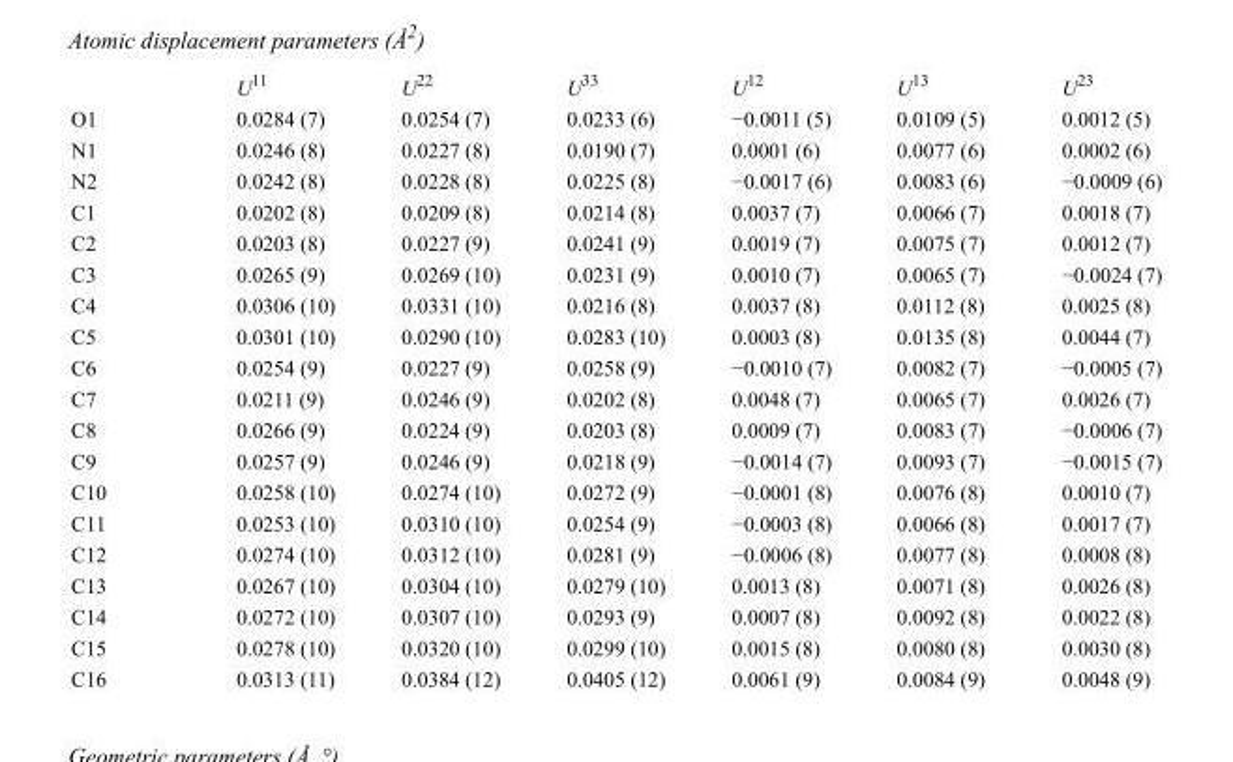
<table><thead><tr><td></td><td>U<sup>11</sup></td><td>U<sup>22</sup></td><td>U<sup>33</sup></td><td>U<sup>12</sup></td><td>U<sup>13</sup></td><td>U<sup>23</sup></td></tr></thead><tbody><tr><td>O1</td><td>0.0284 (7)</td><td>0.0254 (7)</td><td>0.0233 (6)</td><td>−0.0011 (5)</td><td>0.0109 (5)</td><td>0.0012 (5)</td></tr><tr><td>N1</td><td>0.0246 (8)</td><td>0.0227 (8)</td><td>0.0190 (7)</td><td>0.0001 (6)</td><td>0.0077 (6)</td><td>0.0002 (6)</td></tr><tr><td>N2</td><td>0.0242 (8)</td><td>0.0228 (8)</td><td>0.0225 (8)</td><td>−0.0017 (6)</td><td>0.0083 (6)</td><td>−0.0009 (6)</td></tr><tr><td>C1</td><td>0.0202 (8)</td><td>0.0209 (8)</td><td>0.0214 (8)</td><td>0.0037 (7)</td><td>0.0066 (7)</td><td>0.0018 (7)</td></tr><tr><td>C2</td><td>0.0203 (8)</td><td>0.0227 (9)</td><td>0.0241 (9)</td><td>0.0019 (7)</td><td>0.0075 (7)</td><td>0.0012 (7)</td></tr><tr><td>C3</td><td>0.0265 (9)</td><td>0.0269 (10)</td><td>0.0231 (9)</td><td>0.0010 (7)</td><td>0.0065 (7)</td><td>−0.0024 (7)</td></tr><tr><td>C4</td><td>0.0306 (10)</td><td>0.0331 (10)</td><td>0.0216 (8)</td><td>0.0037 (8)</td><td>0.0112 (8)</td><td>0.0025 (8)</td></tr><tr><td>C5</td><td>0.0301 (10)</td><td>0.0290 (10)</td><td>0.0283 (10)</td><td>0.0003 (8)</td><td>0.0135 (8)</td><td>0.0044 (7)</td></tr><tr><td>C6</td><td>0.0254 (9)</td><td>0.0227 (9)</td><td>0.0258 (9)</td><td>−0.0010 (7)</td><td>0.0082 (7)</td><td>−0.0005 (7)</td></tr><tr><td>C7</td><td>0.0211 (9)</td><td>0.0246 (9)</td><td>0.0202 (8)</td><td>0.0048 (7)</td><td>0.0065 (7)</td><td>0.0026 (7)</td></tr><tr><td>C8</td><td>0.0266 (9)</td><td>0.0224 (9)</td><td>0.0203 (8)</td><td>0.0009 (7)</td><td>0.0083 (7)</td><td>−0.0006 (7)</td></tr><tr><td>C9</td><td>0.0257 (9)</td><td>0.0246 (9)</td><td>0.0218 (9)</td><td>−0.0014 (7)</td><td>0.0093 (7)</td><td>−0.0015 (7)</td></tr><tr><td>C10</td><td>0.0258 (10)</td><td>0.0274 (10)</td><td>0.0272 (9)</td><td>−0.0001 (8)</td><td>0.0076 (8)</td><td>0.0010 (7)</td></tr><tr><td>C11</td><td>0.0253 (10)</td><td>0.0310 (10)</td><td>0.0254 (9)</td><td>−0.0003 (8)</td><td>0.0066 (8)</td><td>0.0017 (7)</td></tr><tr><td>C12</td><td>0.0274 (10)</td><td>0.0312 (10)</td><td>0.0281 (9)</td><td>−0.0006 (8)</td><td>0.0077 (8)</td><td>0.0008 (8)</td></tr><tr><td>C13</td><td>0.0267 (10)</td><td>0.0304 (10)</td><td>0.0279 (10)</td><td>0.0013 (8)</td><td>0.0071 (8)</td><td>0.0026 (8)</td></tr><tr><td>C14</td><td>0.0272 (10)</td><td>0.0307 (10)</td><td>0.0293 (9)</td><td>0.0007 (8)</td><td>0.0092 (8)</td><td>0.0022 (8)</td></tr><tr><td>C15</td><td>0.0278 (10)</td><td>0.0320 (10)</td><td>0.0299 (10)</td><td>0.0015 (8)</td><td>0.0080 (8)</td><td>0.0030 (8)</td></tr><tr><td>C16</td><td>0.0313 (11)</td><td>0.0384 (12)</td><td>0.0405 (12)</td><td>0.0061 (9)</td><td>0.0084 (9)</td><td>0.0048 (9)</td></tr></tbody></table>